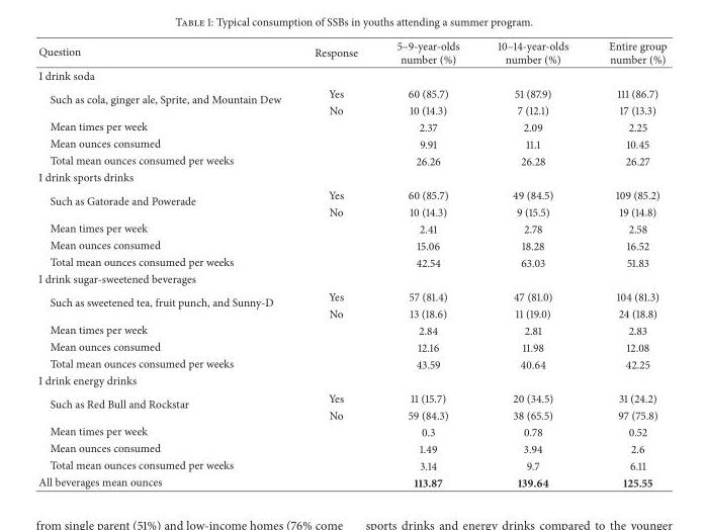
<table><thead><tr><td>Question</td><td>Response</td><td>5–9-year-olds number (%)</td><td>10–14-year-olds number (%)</td><td>Entire group number (%)</td></tr></thead><tbody><tr><td colspan="5">I drink soda</td></tr><tr><td rowspan="2">Such as cola, ginger ale, Sprite, and Mountain Dew</td><td>Yes</td><td>60 (85.7)</td><td>51 (87.9)</td><td>111 (86.7)</td></tr><tr><td>No</td><td>10 (14.3)</td><td>7 (12.1)</td><td>17 (13.3)</td></tr><tr><td>Mean times per week</td><td></td><td>2.37</td><td>2.09</td><td>2.25</td></tr><tr><td>Mean ounces consumed</td><td></td><td>9.91</td><td>11.1</td><td>10.45</td></tr><tr><td>Total mean ounces consumed per weeks</td><td></td><td>26.26</td><td>26.28</td><td>26.27</td></tr><tr><td colspan="5">I drink sports drinks</td></tr><tr><td rowspan="2">Such as Gatorade and Powerade</td><td>Yes</td><td>60 (85.7)</td><td>49 (84.5)</td><td>109 (85.2)</td></tr><tr><td>No</td><td>10 (14.3)</td><td>9 (15.5)</td><td>19 (14.8)</td></tr><tr><td>Mean times per week</td><td></td><td>2.41</td><td>2.78</td><td>2.58</td></tr><tr><td>Mean ounces consumed</td><td></td><td>15.06</td><td>18.28</td><td>16.52</td></tr><tr><td>Total mean ounces consumed per weeks</td><td></td><td>42.54</td><td>63.03</td><td>51.83</td></tr><tr><td colspan="5">I drink sugar-sweetened beverages</td></tr><tr><td rowspan="2">Such as sweetened tea, fruit punch, and Sunny-D</td><td>Yes</td><td>57 (81.4)</td><td>47 (81.0)</td><td>104 (81.3)</td></tr><tr><td>No</td><td>13 (18.6)</td><td>11 (19.0)</td><td>24 (18.8)</td></tr><tr><td>Mean times per week</td><td></td><td>2.84</td><td>2.81</td><td>2.83</td></tr><tr><td>Mean ounces consumed</td><td></td><td>12.16</td><td>11.98</td><td>12.08</td></tr><tr><td>Total mean ounces consumed per weeks</td><td></td><td>43.59</td><td>40.64</td><td>42.25</td></tr><tr><td colspan="5">I drink energy drinks</td></tr><tr><td rowspan="2">Such as Red Bull and Rockstar</td><td>Yes</td><td>11 (15.7)</td><td>20 (34.5)</td><td>31 (24.2)</td></tr><tr><td>No</td><td>59 (84.3)</td><td>38 (65.5)</td><td>97 (75.8)</td></tr><tr><td>Mean times per week</td><td></td><td>0.3</td><td>0.78</td><td>0.52</td></tr><tr><td>Mean ounces consumed</td><td></td><td>1.49</td><td>3.94</td><td>2.6</td></tr><tr><td>Total mean ounces consumed per weeks</td><td></td><td>3.14</td><td>9.7</td><td>6.11</td></tr><tr><td>All beverages mean ounces</td><td></td><td>113.87</td><td>139.64</td><td>125.55</td></tr></tbody></table>